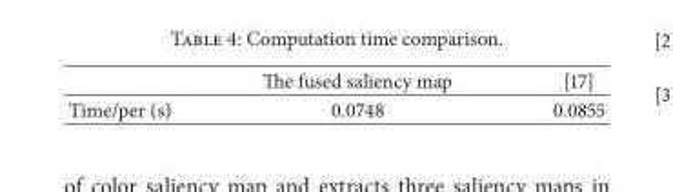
<table><thead><tr><td></td><td>The fused saliency map</td><td>[17]</td></tr></thead><tbody><tr><td>Time/per (s)</td><td>0.0748</td><td>0.0855</td></tr></tbody></table>